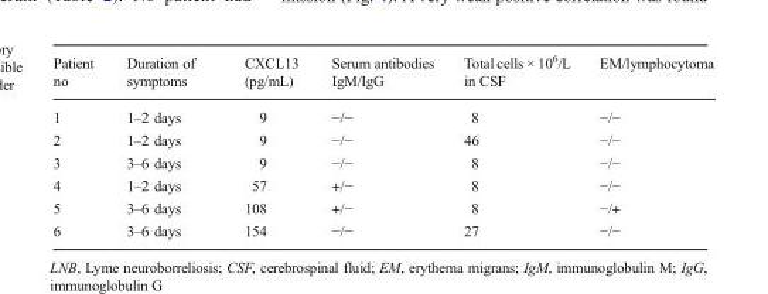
<table><thead><tr><td>Patient no</td><td>Duration of symptoms</td><td>CXCL13 (pg/mL)</td><td>Serum antibodies IgM/IgG</td><td>Total cells × 10<sup>6</sup>/L in CSF</td><td>EM/lymphocytoma</td></tr></thead><tbody><tr><td>1</td><td>1–2 days</td><td>9</td><td>−/−</td><td>8</td><td>−/−</td></tr><tr><td>2</td><td>1–2 days</td><td>9</td><td>−/−</td><td>46</td><td>−/−</td></tr><tr><td>3</td><td>3–6 days</td><td>9</td><td>−/−</td><td>8</td><td>−/−</td></tr><tr><td>4</td><td>1–2 days</td><td>57</td><td>+/−</td><td>8</td><td>−/−</td></tr><tr><td>5</td><td>3–6 days</td><td>108</td><td>+/−</td><td>8</td><td>−/+</td></tr><tr><td>6</td><td>3–6 days</td><td>154</td><td>−/−</td><td>27</td><td>−/−</td></tr></tbody></table>